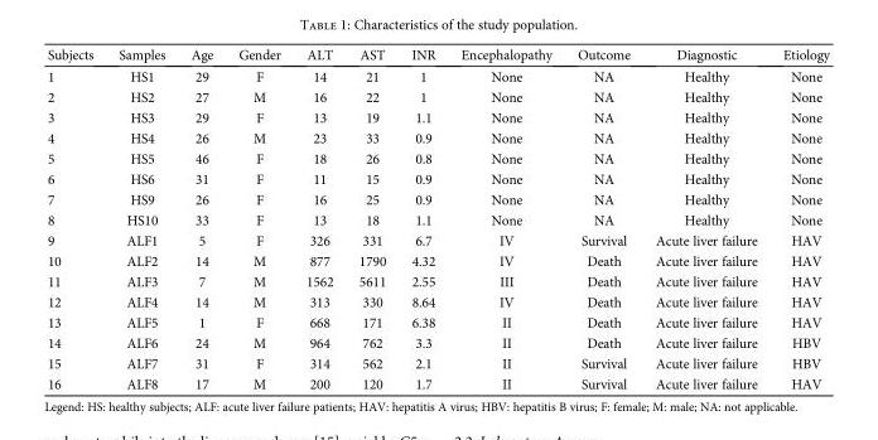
<table><thead><tr><td>Subjects</td><td>Samples</td><td>Age</td><td>Gender</td><td>ALT</td><td>AST</td><td>INR</td><td>Encephalopathy</td><td>Outcome</td><td>Diagnostic</td><td>Etiology</td></tr></thead><tbody><tr><td>1</td><td>HS1</td><td>29</td><td>F</td><td>14</td><td>21</td><td>1</td><td>None</td><td>NA</td><td>Healthy</td><td>None</td></tr><tr><td>2</td><td>HS2</td><td>27</td><td>M</td><td>16</td><td>22</td><td>1</td><td>None</td><td>NA</td><td>Healthy</td><td>None</td></tr><tr><td>3</td><td>HS3</td><td>29</td><td>F</td><td>13</td><td>19</td><td>1.1</td><td>None</td><td>NA</td><td>Healthy</td><td>None</td></tr><tr><td>4</td><td>HS4</td><td>26</td><td>M</td><td>23</td><td>33</td><td>0.9</td><td>None</td><td>NA</td><td>Healthy</td><td>None</td></tr><tr><td>5</td><td>HS5</td><td>46</td><td>F</td><td>18</td><td>26</td><td>0.8</td><td>None</td><td>NA</td><td>Healthy</td><td>None</td></tr><tr><td>6</td><td>HS6</td><td>31</td><td>F</td><td>11</td><td>15</td><td>0.9</td><td>None</td><td>NA</td><td>Healthy</td><td>None</td></tr><tr><td>7</td><td>HS9</td><td>26</td><td>F</td><td>16</td><td>25</td><td>0.9</td><td>None</td><td>NA</td><td>Healthy</td><td>None</td></tr><tr><td>8</td><td>HS10</td><td>33</td><td>F</td><td>13</td><td>18</td><td>1.1</td><td>None</td><td>NA</td><td>Healthy</td><td>None</td></tr><tr><td>9</td><td>ALF1</td><td>5</td><td>F</td><td>326</td><td>331</td><td>6.7</td><td>IV</td><td>Survival</td><td>Acute liver failure</td><td>HAV</td></tr><tr><td>10</td><td>ALF2</td><td>14</td><td>M</td><td>877</td><td>1790</td><td>4.32</td><td>IV</td><td>Death</td><td>Acute liver failure</td><td>HAV</td></tr><tr><td>11</td><td>ALF3</td><td>7</td><td>M</td><td>1562</td><td>5611</td><td>2.55</td><td>III</td><td>Death</td><td>Acute liver failure</td><td>HAV</td></tr><tr><td>12</td><td>ALF4</td><td>14</td><td>M</td><td>313</td><td>330</td><td>8.64</td><td>IV</td><td>Death</td><td>Acute liver failure</td><td>HAV</td></tr><tr><td>13</td><td>ALF5</td><td>1</td><td>F</td><td>668</td><td>171</td><td>6.38</td><td>II</td><td>Death</td><td>Acute liver failure</td><td>HAV</td></tr><tr><td>14</td><td>ALF6</td><td>24</td><td>M</td><td>964</td><td>762</td><td>3.3</td><td>II</td><td>Death</td><td>Acute liver failure</td><td>HBV</td></tr><tr><td>15</td><td>ALF7</td><td>31</td><td>F</td><td>314</td><td>562</td><td>2.1</td><td>II</td><td>Survival</td><td>Acute liver failure</td><td>HBV</td></tr><tr><td>16</td><td>ALF8</td><td>17</td><td>M</td><td>200</td><td>120</td><td>1.7</td><td>II</td><td>Survival</td><td>Acute liver failure</td><td>HAV</td></tr></tbody></table>